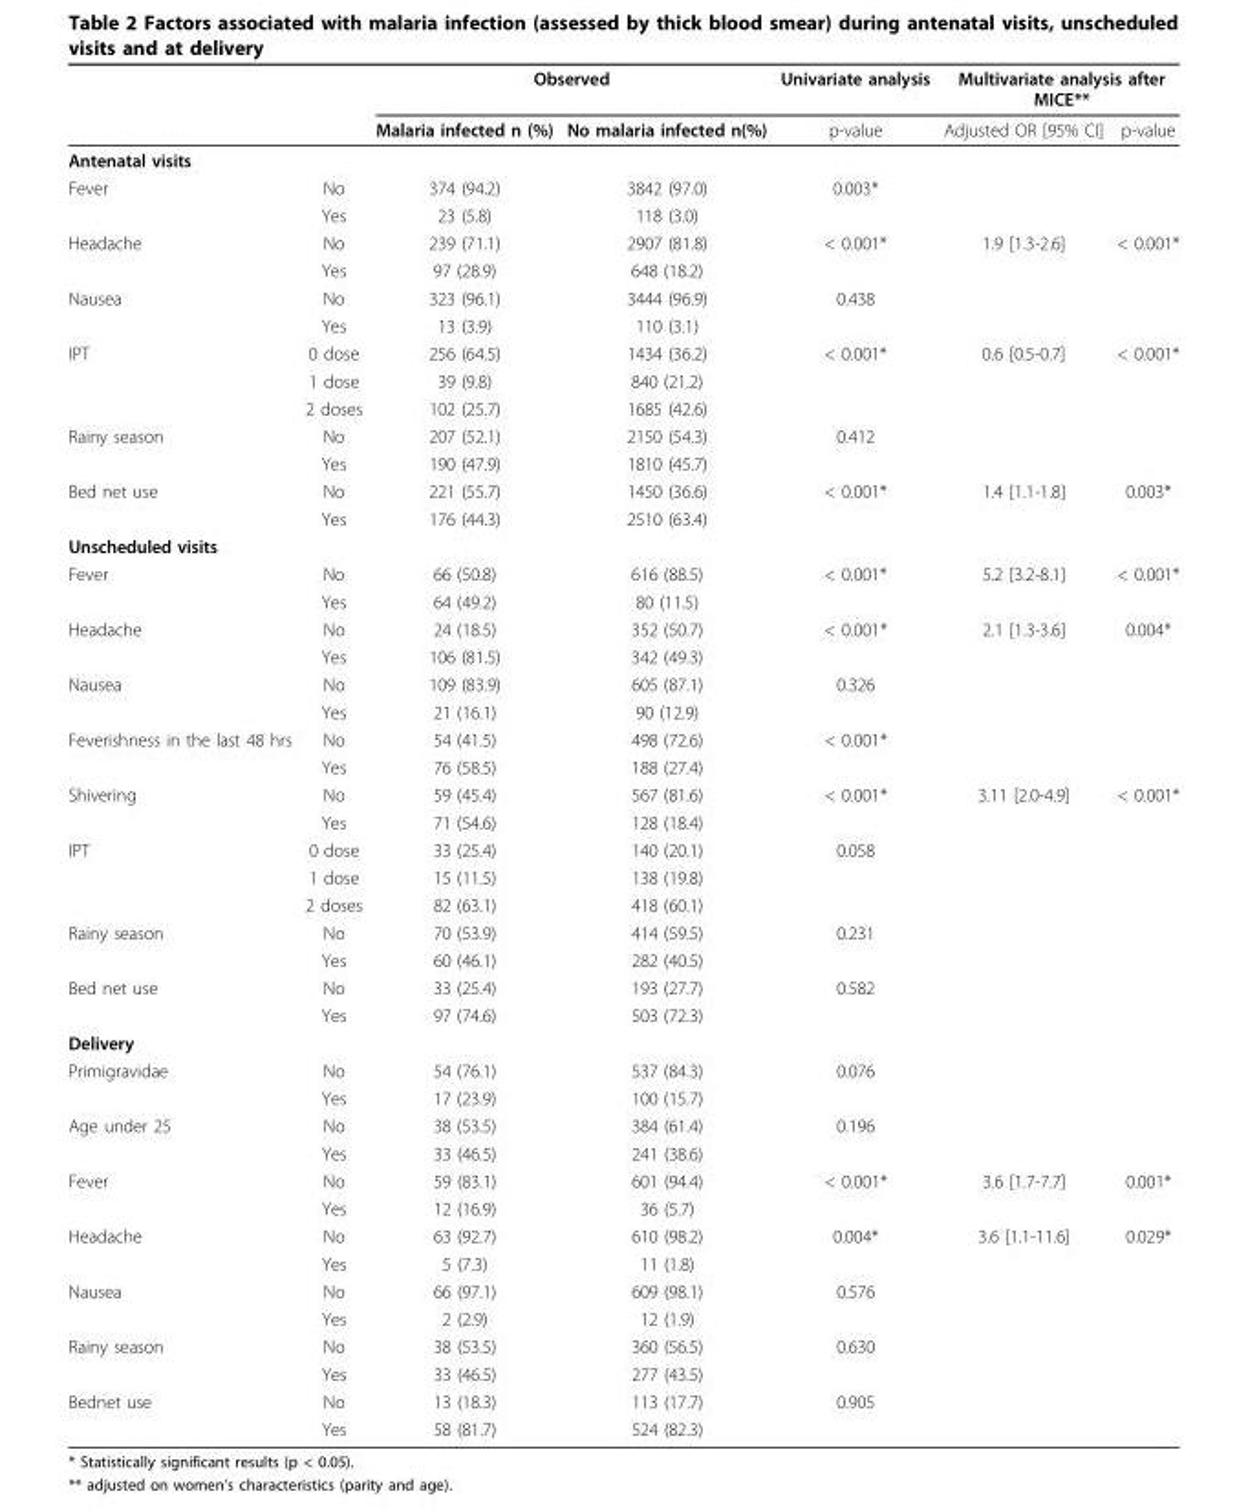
<table><thead><tr><td rowspan="2"></td><td rowspan="2"></td><td colspan="2">Observed</td><td rowspan="2">Univariate analysis p-value</td><td colspan="2">Multivariate analysis after MICE**</td></tr><tr><td>Malaria infected n (%)</td><td>No malaria infected n(%)</td><td>Adjusted OR [95% CI]</td><td>p-value</td></tr></thead><tbody><tr><td colspan="7">Antenatal visits</td></tr><tr><td rowspan="2">Fever</td><td>No</td><td>374 (94.2)</td><td>3842 (97.0)</td><td>0.003*</td><td></td><td></td></tr><tr><td>Yes</td><td>23 (5.8)</td><td>118 (3.0)</td><td></td><td></td><td></td></tr><tr><td rowspan="2">Headache</td><td>No</td><td>239 (71.1)</td><td>2907 (81.8)</td><td>&lt; 0.001*</td><td>1.9 [1.3-2.6]</td><td>&lt; 0.001*</td></tr><tr><td>Yes</td><td>97 (28.9)</td><td>648 (18.2)</td><td></td><td></td><td></td></tr><tr><td rowspan="2">Nausea</td><td>No</td><td>323 (96.1)</td><td>3444 (96.9)</td><td>0.438</td><td></td><td></td></tr><tr><td>Yes</td><td>13 (3.9)</td><td>110 (3.1)</td><td></td><td></td><td></td></tr><tr><td rowspan="3">IPT</td><td>0 dose</td><td>256 (64.5)</td><td>1434 (36.2)</td><td>&lt; 0.001*</td><td>0.6 [0.5-0.7]</td><td>&lt; 0.001*</td></tr><tr><td>1 dose</td><td>39 (9.8)</td><td>840 (21.2)</td><td></td><td></td><td></td></tr><tr><td>2 doses</td><td>102 (25.7)</td><td>1685 (42.6)</td><td></td><td></td><td></td></tr><tr><td rowspan="2">Rainy season</td><td>No</td><td>207 (52.1)</td><td>2150 (54.3)</td><td>0.412</td><td></td><td></td></tr><tr><td>Yes</td><td>190 (47.9)</td><td>1810 (45.7)</td><td></td><td></td><td></td></tr><tr><td rowspan="2">Bed net use</td><td>No</td><td>221 (55.7)</td><td>1450 (36.6)</td><td>&lt; 0.001*</td><td>1.4 [1.1-1.8]</td><td>0.003*</td></tr><tr><td>Yes</td><td>176 (44.3)</td><td>2510 (63.4)</td><td></td><td></td><td></td></tr><tr><td colspan="7">Unscheduled visits</td></tr><tr><td rowspan="2">Fever</td><td>No</td><td>66 (50.8)</td><td>616 (88.5)</td><td>&lt; 0.001*</td><td>5.2 [3.2-8.1]</td><td>&lt; 0.001*</td></tr><tr><td>Yes</td><td>64 (49.2)</td><td>80 (11.5)</td><td></td><td></td><td></td></tr><tr><td rowspan="2">Headache</td><td>No</td><td>24 (18.5)</td><td>352 (50.7)</td><td>&lt; 0.001*</td><td>2.1 [1.3-3.6]</td><td>0.004*</td></tr><tr><td>Yes</td><td>106 (81.5)</td><td>342 (49.3)</td><td></td><td></td><td></td></tr><tr><td rowspan="2">Nausea</td><td>No</td><td>109 (83.9)</td><td>605 (87.1)</td><td>0.326</td><td></td><td></td></tr><tr><td>Yes</td><td>21 (16.1)</td><td>90 (12.9)</td><td></td><td></td><td></td></tr><tr><td rowspan="2">Feverishness in the last 48 hrs</td><td>No</td><td>54 (41.5)</td><td>498 (72.6)</td><td>&lt; 0.001*</td><td></td><td></td></tr><tr><td>Yes</td><td>76 (58.5)</td><td>188 (27.4)</td><td></td><td></td><td></td></tr><tr><td rowspan="2">Shivering</td><td>No</td><td>59 (45.4)</td><td>567 (81.6)</td><td>&lt; 0.001*</td><td>3.11 [2.0-4.9]</td><td>&lt; 0.001*</td></tr><tr><td>Yes</td><td>71 (54.6)</td><td>128 (18.4)</td><td></td><td></td><td></td></tr><tr><td rowspan="3">IPT</td><td>0 dose</td><td>33 (25.4)</td><td>140 (20.1)</td><td>0.058</td><td></td><td></td></tr><tr><td>1 dose</td><td>15 (11.5)</td><td>138 (19.8)</td><td></td><td></td><td></td></tr><tr><td>2 doses</td><td>82 (63.1)</td><td>418 (60.1)</td><td></td><td></td><td></td></tr><tr><td rowspan="2">Rainy season</td><td>No</td><td>70 (53.9)</td><td>414 (59.5)</td><td>0.231</td><td></td><td></td></tr><tr><td>Yes</td><td>60 (46.1)</td><td>282 (40.5)</td><td></td><td></td><td></td></tr><tr><td rowspan="2">Bed net use</td><td>No</td><td>33 (25.4)</td><td>193 (27.7)</td><td>0.582</td><td></td><td></td></tr><tr><td>Yes</td><td>97 (74.6)</td><td>503 (72.3)</td><td></td><td></td><td></td></tr><tr><td colspan="7">Delivery</td></tr><tr><td rowspan="2">Primigravidae</td><td>No</td><td>54 (76.1)</td><td>537 (84.3)</td><td>0.076</td><td></td><td></td></tr><tr><td>Yes</td><td>17 (23.9)</td><td>100 (15.7)</td><td></td><td></td><td></td></tr><tr><td rowspan="2">Age under 25</td><td>No</td><td>38 (53.5)</td><td>384 (61.4)</td><td>0.196</td><td></td><td></td></tr><tr><td>Yes</td><td>33 (46.5)</td><td>241 (38.6)</td><td></td><td></td><td></td></tr><tr><td rowspan="2">Fever</td><td>No</td><td>59 (83.1)</td><td>601 (94.4)</td><td>&lt; 0.001*</td><td>3.6 [1.7-7.7]</td><td>0.001*</td></tr><tr><td>Yes</td><td>12 (16.9)</td><td>36 (5.7)</td><td></td><td></td><td></td></tr><tr><td rowspan="2">Headache</td><td>No</td><td>63 (92.7)</td><td>610 (98.2)</td><td>0.004*</td><td>3.6 [1.1-11.6]</td><td>0.029*</td></tr><tr><td>Yes</td><td>5 (7.3)</td><td>11 (1.8)</td><td></td><td></td><td></td></tr><tr><td rowspan="2">Nausea</td><td>No</td><td>66 (97.1)</td><td>609 (98.1)</td><td>0.576</td><td></td><td></td></tr><tr><td>Yes</td><td>2 (2.9)</td><td>12 (1.9)</td><td></td><td></td><td></td></tr><tr><td rowspan="2">Rainy season</td><td>No</td><td>38 (53.5)</td><td>360 (56.5)</td><td>0.630</td><td></td><td></td></tr><tr><td>Yes</td><td>33 (46.5)</td><td>277 (43.5)</td><td></td><td></td><td></td></tr><tr><td rowspan="2">Bednet use</td><td>No</td><td>13 (18.3)</td><td>113 (17.7)</td><td>0.905</td><td></td><td></td></tr><tr><td>Yes</td><td>58 (81.7)</td><td>524 (82.3)</td><td></td><td></td><td></td></tr></tbody></table>